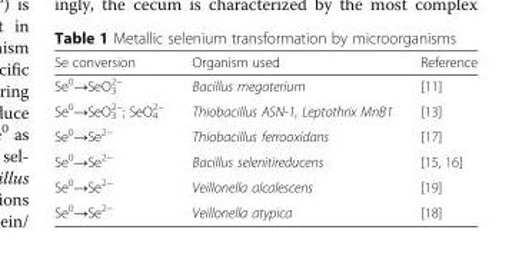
<table><thead><tr><td>Se conversion</td><td>Organism used</td><td>Reference</td></tr></thead><tbody><tr><td>Se<sup>0</sup>→SeO<sub>3</sub> <sup>2−</sup></td><td>Bacillus megaterium</td><td>[11]</td></tr><tr><td>Se<sup>0</sup>→SeO<sub>3</sub> <sup>2−</sup>; SeO<sub>4</sub> <sup>2−</sup></td><td>Thiobacillus ASN-1, Leptothrix MnB1</td><td>[13]</td></tr><tr><td>Se<sup>0</sup>→Se<sup>2−</sup></td><td>Thiobacillus ferrooxidans</td><td>[17]</td></tr><tr><td>Se<sup>0</sup>→Se<sup>2−</sup></td><td>Bacillus selenitireducens</td><td>[15, 16]</td></tr><tr><td>Se<sup>0</sup>→Se<sup>2−</sup></td><td>Veillonella alcalescens</td><td>[19]</td></tr><tr><td>Se<sup>0</sup>→Se<sup>2−</sup></td><td>Veillonella atypica</td><td>[18]</td></tr></tbody></table>